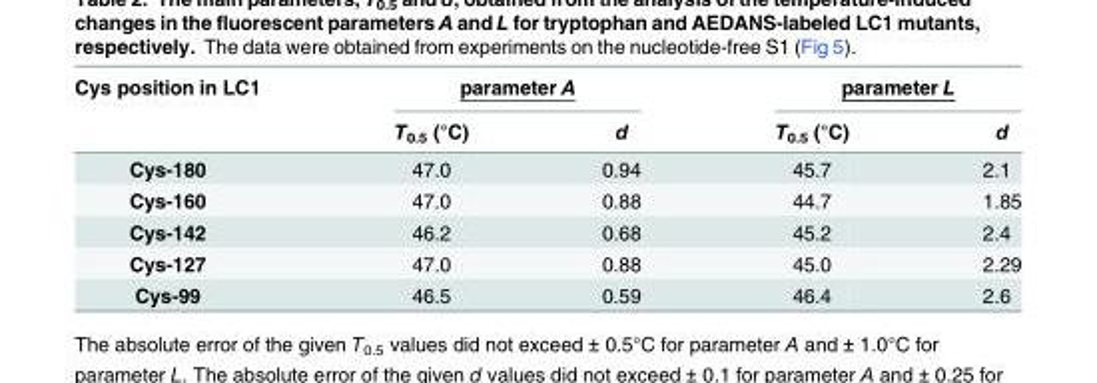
<table><thead><tr><td rowspan="2">Cys position in LC1</td><td colspan="2">parameter A</td><td colspan="2">parameter L</td></tr><tr><td>T<sub>0.5</sub> (°C)</td><td>d</td><td>T<sub>0.5</sub> (°C)</td><td>d</td></tr></thead><tbody><tr><td>Cys-180</td><td>47.0</td><td>0.94</td><td>45.7</td><td>2.1</td></tr><tr><td>Cys-160</td><td>47.0</td><td>0.88</td><td>44.7</td><td>1.85</td></tr><tr><td>Cys-142</td><td>46.2</td><td>0.68</td><td>45.2</td><td>2.4</td></tr><tr><td>Cys-127</td><td>47.0</td><td>0.88</td><td>45.0</td><td>2.29</td></tr><tr><td>Cys-99</td><td>46.5</td><td>0.59</td><td>46.4</td><td>2.6</td></tr></tbody></table>